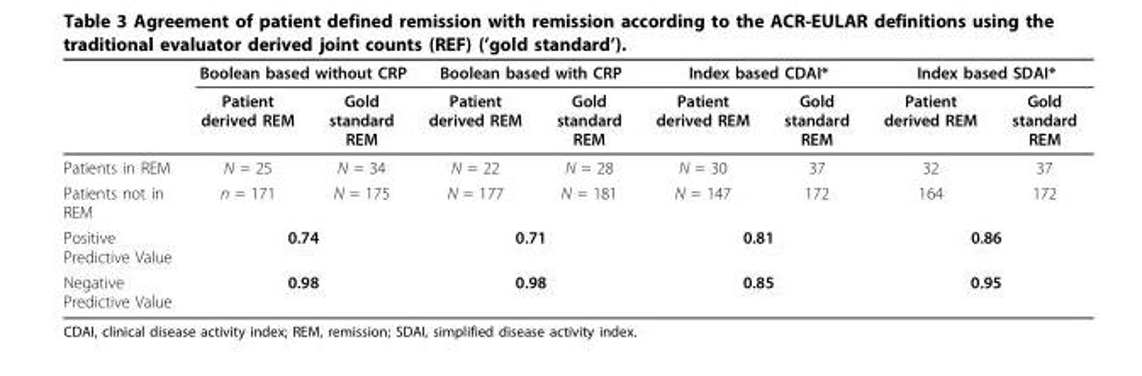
<table><thead><tr><td rowspan="2"></td><td colspan="2">Boolean based without CRP</td><td colspan="2">Boolean based with CRP</td><td colspan="2">Index based CDAI*</td><td colspan="2">Index based SDAI*</td></tr><tr><td>Patient derived REM</td><td>Gold standard REM</td><td>Patient derived REM</td><td>Gold standard REM</td><td>Patient derived REM</td><td>Gold standard REM</td><td>Patient derived REM</td><td>Gold standard REM</td></tr></thead><tbody><tr><td>Patients in REM</td><td>N = 25</td><td>N = 34</td><td>N = 22</td><td>N = 28</td><td>N = 30</td><td>37</td><td>32</td><td>37</td></tr><tr><td>Patients not in REM</td><td>n = 171</td><td>N = 175</td><td>N = 177</td><td>N = 181</td><td>N = 147</td><td>172</td><td>164</td><td>172</td></tr><tr><td>Positive Predictive Value</td><td colspan="2">0.74</td><td colspan="2">0.71</td><td colspan="2">0.81</td><td colspan="2">0.86</td></tr><tr><td>Negative Predictive Value</td><td colspan="2">0.98</td><td colspan="2">0.98</td><td colspan="2">0.85</td><td colspan="2">0.95</td></tr></tbody></table>